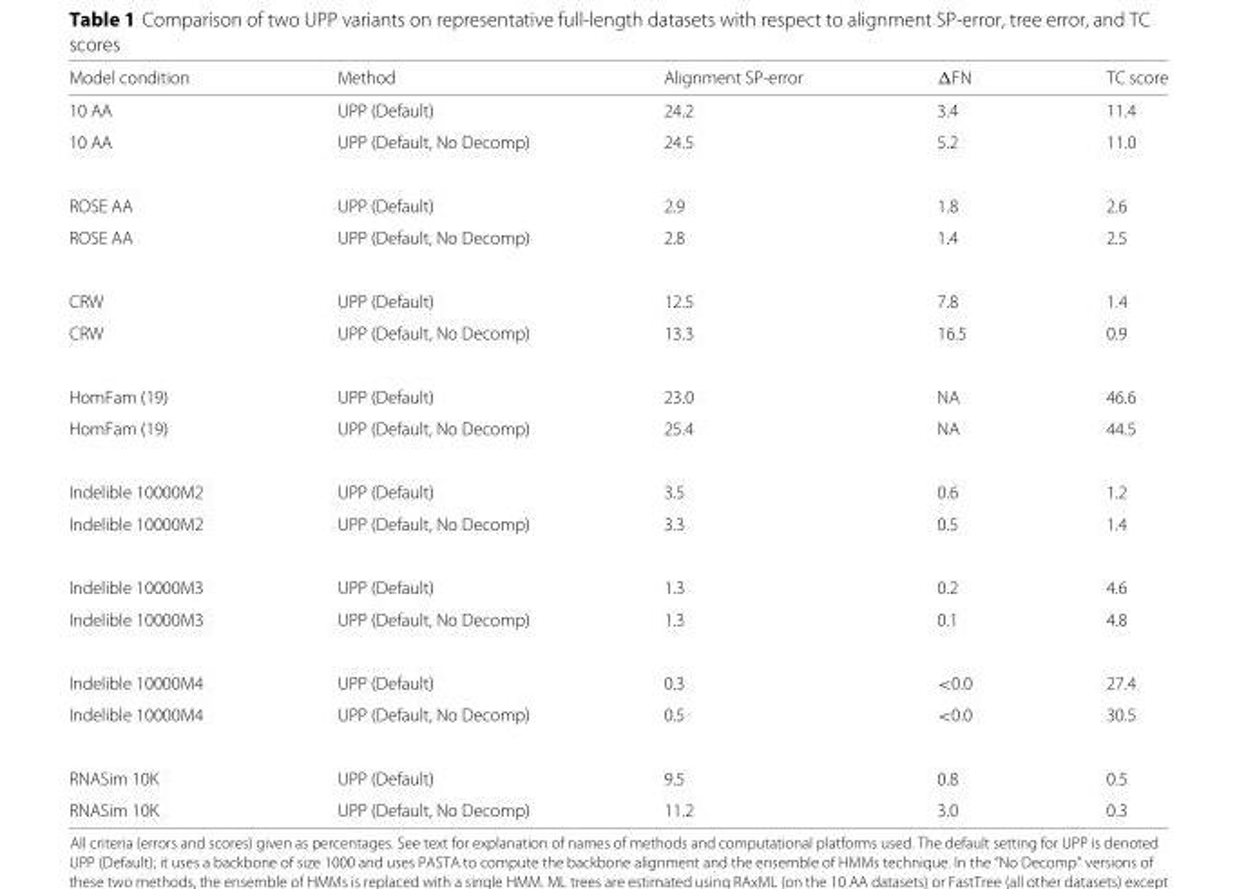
<table><thead><tr><td>Model condition</td><td>Method</td><td>Alignment SP-error</td><td>ΔFN</td><td>TC score</td></tr></thead><tbody><tr><td>10 AA</td><td>UPP (Default)</td><td>24.2</td><td>3.4</td><td>11.4</td></tr><tr><td>10 AA</td><td>UPP (Default, No Decomp)</td><td>24.5</td><td>5.2</td><td>11.0</td></tr><tr><td>ROSE AA</td><td>UPP (Default)</td><td>2.9</td><td>1.8</td><td>2.6</td></tr><tr><td>ROSE AA</td><td>UPP (Default, No Decomp)</td><td>2.8</td><td>1.4</td><td>2.5</td></tr><tr><td>CRW</td><td>UPP (Default)</td><td>12.5</td><td>7.8</td><td>1.4</td></tr><tr><td>CRW</td><td>UPP (Default, No Decomp)</td><td>13.3</td><td>16.5</td><td>0.9</td></tr><tr><td>HomFam (19)</td><td>UPP (Default)</td><td>23.0</td><td>NA</td><td>46.6</td></tr><tr><td>HomFam (19)</td><td>UPP (Default, No Decomp)</td><td>25.4</td><td>NA</td><td>44.5</td></tr><tr><td>Indelible 10000M2</td><td>UPP (Default)</td><td>3.5</td><td>0.6</td><td>1.2</td></tr><tr><td>Indelible 10000M2</td><td>UPP (Default, No Decomp)</td><td>3.3</td><td>0.5</td><td>1.4</td></tr><tr><td>Indelible 10000M3</td><td>UPP (Default)</td><td>1.3</td><td>0.2</td><td>4.6</td></tr><tr><td>Indelible 10000M3</td><td>UPP (Default, No Decomp)</td><td>1.3</td><td>0.1</td><td>4.8</td></tr><tr><td>Indelible 10000M4</td><td>UPP (Default)</td><td>0.3</td><td>&lt;0.0</td><td>27.4</td></tr><tr><td>Indelible 10000M4</td><td>UPP (Default, No Decomp)</td><td>0.5</td><td>&lt;0.0</td><td>30.5</td></tr><tr><td>RNASim 10K</td><td>UPP (Default)</td><td>9.5</td><td>0.8</td><td>0.5</td></tr><tr><td>RNASim 10K</td><td>UPP (Default, No Decomp)</td><td>11.2</td><td>3.0</td><td>0.3</td></tr></tbody></table>